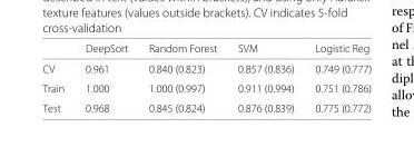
<table><thead><tr><td></td><td>DeepSort</td><td>Random Forest</td><td>SVM</td><td>Logistic Reg</td></tr></thead><tbody><tr><td>CV</td><td>0.961</td><td>0.840 (0.823)</td><td>0.857 (0.836)</td><td>0.749 (0.777)</td></tr><tr><td>Train</td><td>1.000</td><td>1.000 (0.997)</td><td>0.911 (0.994)</td><td>0.751 (0.786)</td></tr><tr><td>Test</td><td>0.968</td><td>0.845 (0.824)</td><td>0.876 (0.839)</td><td>0.775 (0.772)</td></tr></tbody></table>